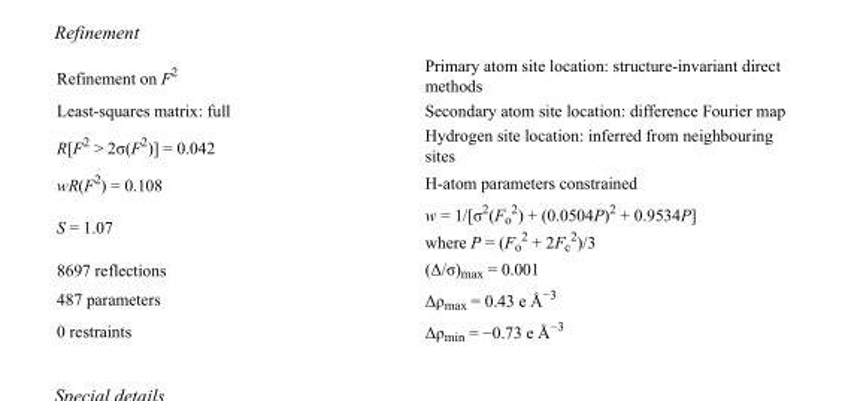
<table><tbody><tr><td>Refinement on F<sup>2</sup></td><td>Primary atom site location: structure-invariant direct methods</td></tr><tr><td>Least-squares matrix: full</td><td>Secondary atom site location: difference Fourier map</td></tr><tr><td>R[F<sup>2</sup> &gt; 2σ(F<sup>2</sup>)] = 0.042</td><td>Hydrogen site location: inferred from neighbouring sites</td></tr><tr><td>wR(F<sup>2</sup>) = 0.108</td><td>H-atom parameters constrained</td></tr><tr><td>S = 1.07</td><td>w = 1/[σ<sup>2</sup>(F<sub>o</sub> <sup>2</sup>) + (0.0504P)<sup>2</sup> + 0.9534P] where P = (F<sub>o</sub> <sup>2</sup> + 2F<sub>c</sub> <sup>2</sup>)/3</td></tr><tr><td>8697 reflections</td><td>(Δ/σ)<sub>max</sub> = 0.001</td></tr><tr><td>487 parameters</td><td>Δρ<sub>max</sub> = 0.43 e Å<sup>−3</sup></td></tr><tr><td>0 restraints</td><td>Δρ<sub>min</sub> = −0.73 e Å<sup>−3</sup></td></tr></tbody></table>